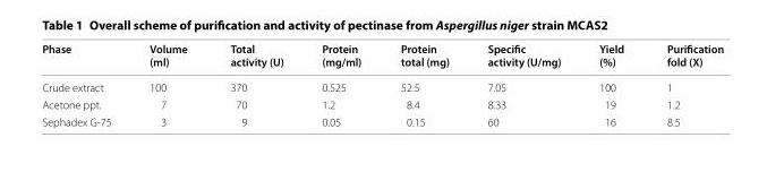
<table><thead><tr><td>Phase</td><td>Volume (ml)</td><td>Total activity (U)</td><td>Protein (mg/ml)</td><td>Protein total (mg)</td><td>Specific activity (U/mg)</td><td>Yield (%)</td><td>Purification fold (X)</td></tr></thead><tbody><tr><td>Crude extract</td><td>100</td><td>370</td><td>0.525</td><td>52.5</td><td>7.05</td><td>100</td><td>1</td></tr><tr><td>Acetone ppt.</td><td>7</td><td>70</td><td>1.2</td><td>8.4</td><td>8.33</td><td>19</td><td>1.2</td></tr><tr><td>Sephadex G-75</td><td>3</td><td>9</td><td>0.05</td><td>0.15</td><td>60</td><td>16</td><td>8.5</td></tr></tbody></table>